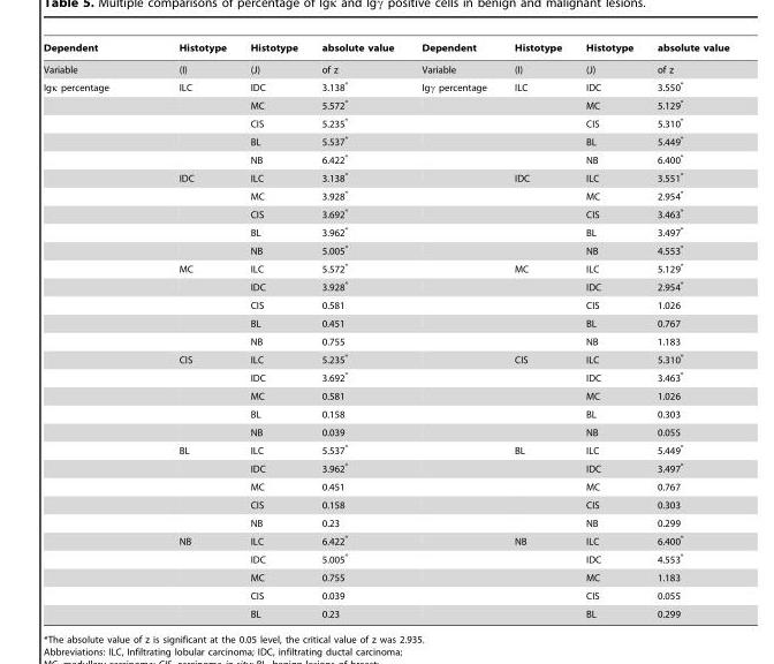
<table><thead><tr><td>Dependent</td><td>Histotype</td><td>Histotype</td><td>absolute value</td><td>Dependent</td><td>Histotype</td><td>Histotype</td><td>absolute value</td></tr></thead><tbody><tr><td>Variable</td><td>(I)</td><td>(J)</td><td>of z</td><td>Variable</td><td>(I)</td><td>(J)</td><td>of z</td></tr><tr><td rowspan="30">Igκ percentage</td><td>ILC</td><td>IDC</td><td>3.138*</td><td>Igγ percentage</td><td>ILC</td><td>IDC</td><td>3.550*</td></tr><tr><td></td><td>MC</td><td>5.572*</td><td colspan="2"></td><td>MC</td><td>5.129*</td></tr><tr><td></td><td>CIS</td><td>5.235*</td><td></td><td></td><td>CIS</td><td>5.310*</td></tr><tr><td></td><td>BL</td><td>5.537*</td><td></td><td></td><td>BL</td><td>5.449*</td></tr><tr><td></td><td>NB</td><td>6.422*</td><td></td><td></td><td>NB</td><td>6.400*</td></tr><tr><td>IDC</td><td>ILC</td><td>3.138*</td><td></td><td>IDC</td><td>ILC</td><td>3.551*</td></tr><tr><td></td><td>MC</td><td>3.928*</td><td></td><td></td><td>MC</td><td>2.954*</td></tr><tr><td></td><td>CIS</td><td>3.692*</td><td></td><td></td><td>CIS</td><td>3.463*</td></tr><tr><td></td><td>BL</td><td>3.962*</td><td></td><td></td><td>BL</td><td>3.497*</td></tr><tr><td></td><td>NB</td><td>5.005*</td><td></td><td></td><td>NB</td><td>4.553*</td></tr><tr><td>MC</td><td>ILC</td><td>5.572*</td><td></td><td>MC</td><td>ILC</td><td>5.129*</td></tr><tr><td></td><td>IDC</td><td>3.928*</td><td></td><td></td><td>IDC</td><td>2.954*</td></tr><tr><td></td><td>CIS</td><td>0.581</td><td></td><td></td><td>CIS</td><td>1.026</td></tr><tr><td></td><td>BL</td><td>0.451</td><td></td><td></td><td>BL</td><td>0.767</td></tr><tr><td></td><td>NB</td><td>0.755</td><td></td><td></td><td>NB</td><td>1.183</td></tr><tr><td>CIS</td><td>ILC</td><td>5.235*</td><td></td><td>CIS</td><td>ILC</td><td>5.310*</td></tr><tr><td></td><td>IDC</td><td>3.692*</td><td></td><td></td><td>IDC</td><td>3.463*</td></tr><tr><td></td><td>MC</td><td>0.581</td><td></td><td></td><td>MC</td><td>1.026</td></tr><tr><td></td><td>BL</td><td>0.158</td><td></td><td></td><td>BL</td><td>0.303</td></tr><tr><td></td><td>NB</td><td>0.039</td><td></td><td></td><td>NB</td><td>0.055</td></tr><tr><td>BL</td><td>ILC</td><td>5.537*</td><td></td><td>BL</td><td>ILC</td><td>5.449*</td></tr><tr><td></td><td>IDC</td><td>3.962*</td><td></td><td></td><td>IDC</td><td>3.497*</td></tr><tr><td></td><td>MC</td><td>0.451</td><td></td><td></td><td>MC</td><td>0.767</td></tr><tr><td></td><td>CIS</td><td>0.158</td><td></td><td></td><td>CIS</td><td>0.303</td></tr><tr><td></td><td>NB</td><td>0.23</td><td></td><td></td><td>NB</td><td>0.299</td></tr><tr><td>NB</td><td>ILC</td><td>6.422*</td><td></td><td>NB</td><td>ILC</td><td>6.400*</td></tr><tr><td></td><td>IDC</td><td>5.005*</td><td></td><td></td><td>IDC</td><td>4.553*</td></tr><tr><td></td><td>MC</td><td>0.755</td><td></td><td></td><td>MC</td><td>1.183</td></tr><tr><td></td><td>CIS</td><td>0.039</td><td></td><td></td><td>CIS</td><td>0.055</td></tr><tr><td></td><td>BL</td><td>0.23</td><td></td><td></td><td>BL</td><td>0.299</td></tr></tbody></table>